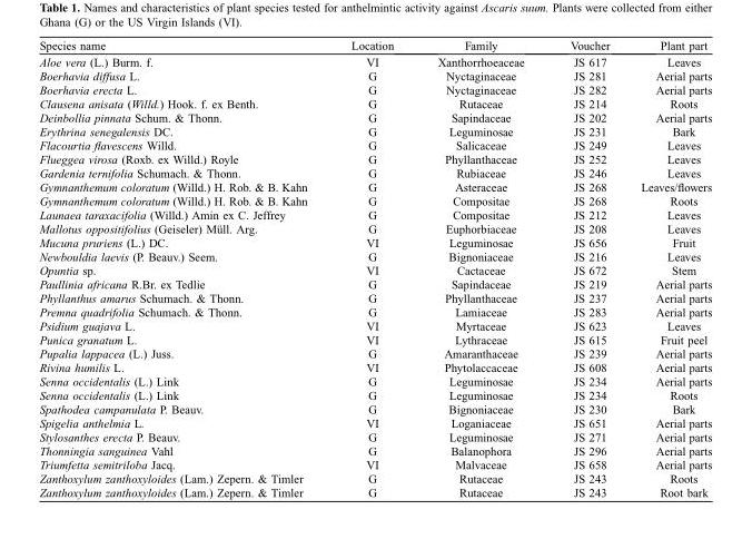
<table><thead><tr><td>Species name</td><td>Location</td><td>Family</td><td>Voucher</td><td>Plant part</td></tr></thead><tbody><tr><td>Aloe vera (L.) Burm. f.</td><td>VI</td><td>Xanthorrhoeaceae</td><td>JS 617</td><td>Leaves</td></tr><tr><td>Boerhavia diffusa L.</td><td>G</td><td>Nyctaginaceae</td><td>JS 281</td><td>Aerial parts</td></tr><tr><td>Boerhavia erecta L.</td><td>G</td><td>Nyctaginaceae</td><td>JS 282</td><td>Aerial parts</td></tr><tr><td>Clausena anisata (Willd.) Hook. f. ex Benth.</td><td>G</td><td>Rutaceae</td><td>JS 214</td><td>Roots</td></tr><tr><td>Deinbollia pinnata Schum. &amp; Thonn.</td><td>G</td><td>Sapindaceae</td><td>JS 202</td><td>Aerial parts</td></tr><tr><td>Erythrina senegalensis DC.</td><td>G</td><td>Leguminosae</td><td>JS 231</td><td>Bark</td></tr><tr><td>Flacourtia flavescens Willd.</td><td>G</td><td>Salicaceae</td><td>JS 249</td><td>Leaves</td></tr><tr><td>Flueggea virosa (Roxb. ex Willd.) Royle</td><td>G</td><td>Phyllanthaceae</td><td>JS 252</td><td>Leaves</td></tr><tr><td>Gardenia ternifolia Schumach. &amp; Thonn.</td><td>G</td><td>Rubiaceae</td><td>JS 246</td><td>Leaves</td></tr><tr><td>Gymnanthemum coloratum (Willd.) H. Rob. &amp; B. Kahn</td><td>G</td><td>Asteraceae</td><td>JS 268</td><td>Leaves/flowers</td></tr><tr><td>Gymnanthemum coloratum (Willd.) H. Rob. &amp; B. Kahn</td><td>G</td><td>Compositae</td><td>JS 268</td><td>Roots</td></tr><tr><td>Launaea taraxacifolia (Willd.) Amin ex C. Jeffrey</td><td>G</td><td>Compositae</td><td>JS 212</td><td>Leaves</td></tr><tr><td>Mallotus oppositifolius (Geiseler) Müll. Arg.</td><td>G</td><td>Euphorbiaceae</td><td>JS 208</td><td>Leaves</td></tr><tr><td>Mucuna pruriens (L.) DC.</td><td>VI</td><td>Leguminosae</td><td>JS 656</td><td>Fruit</td></tr><tr><td>Newbouldia laevis (P. Beauv.) Seem.</td><td>G</td><td>Bignoniaceae</td><td>JS 216</td><td>Leaves</td></tr><tr><td>Opuntia sp.</td><td>VI</td><td>Cactaceae</td><td>JS 672</td><td>Stem</td></tr><tr><td>Paullinia africana R.Br. ex Tedlie</td><td>G</td><td>Sapindaceae</td><td>JS 219</td><td>Aerial parts</td></tr><tr><td>Phyllanthus amarus Schumach. &amp; Thonn.</td><td>G</td><td>Phyllanthaceae</td><td>JS 237</td><td>Aerial parts</td></tr><tr><td>Premna quadrifolia Schumach. &amp; Thonn.</td><td>G</td><td>Lamiaceae</td><td>JS 283</td><td>Aerial parts</td></tr><tr><td>Psidium guajava L.</td><td>VI</td><td>Myrtaceae</td><td>JS 623</td><td>Leaves</td></tr><tr><td>Punica granatum L.</td><td>VI</td><td>Lythraceae</td><td>JS 615</td><td>Fruit peel</td></tr><tr><td>Pupalia lappacea (L.) Juss.</td><td>G</td><td>Amaranthaceae</td><td>JS 239</td><td>Aerial parts</td></tr><tr><td>Rivina humilis L.</td><td>VI</td><td>Phytolaccaceae</td><td>JS 608</td><td>Aerial parts</td></tr><tr><td>Senna occidentalis (L.) Link</td><td>G</td><td>Leguminosae</td><td>JS 234</td><td>Aerial parts</td></tr><tr><td>Senna occidentalis (L.) Link</td><td>G</td><td>Leguminosae</td><td>JS 234</td><td>Roots</td></tr><tr><td>Spathodea campanulata P. Beauv.</td><td>G</td><td>Bignoniaceae</td><td>JS 230</td><td>Bark</td></tr><tr><td>Spigelia anthelmia L.</td><td>VI</td><td>Loganiaceae</td><td>JS 651</td><td>Aerial parts</td></tr><tr><td>Stylosanthes erecta P. Beauv.</td><td>G</td><td>Leguminosae</td><td>JS 271</td><td>Aerial parts</td></tr><tr><td>Thonningia sanguinea Vahl</td><td>G</td><td>Balanophora</td><td>JS 296</td><td>Aerial parts</td></tr><tr><td>Triumfetta semitriloba Jacq.</td><td>VI</td><td>Malvaceae</td><td>JS 658</td><td>Aerial parts</td></tr><tr><td>Zanthoxylum zanthoxyloides (Lam.) Zepern. &amp; Timler</td><td>G</td><td>Rutaceae</td><td>JS 243</td><td>Roots</td></tr><tr><td>Zanthoxylum zanthoxyloides (Lam.) Zepern. &amp; Timler</td><td>G</td><td>Rutaceae</td><td>JS 243</td><td>Root bark</td></tr></tbody></table>